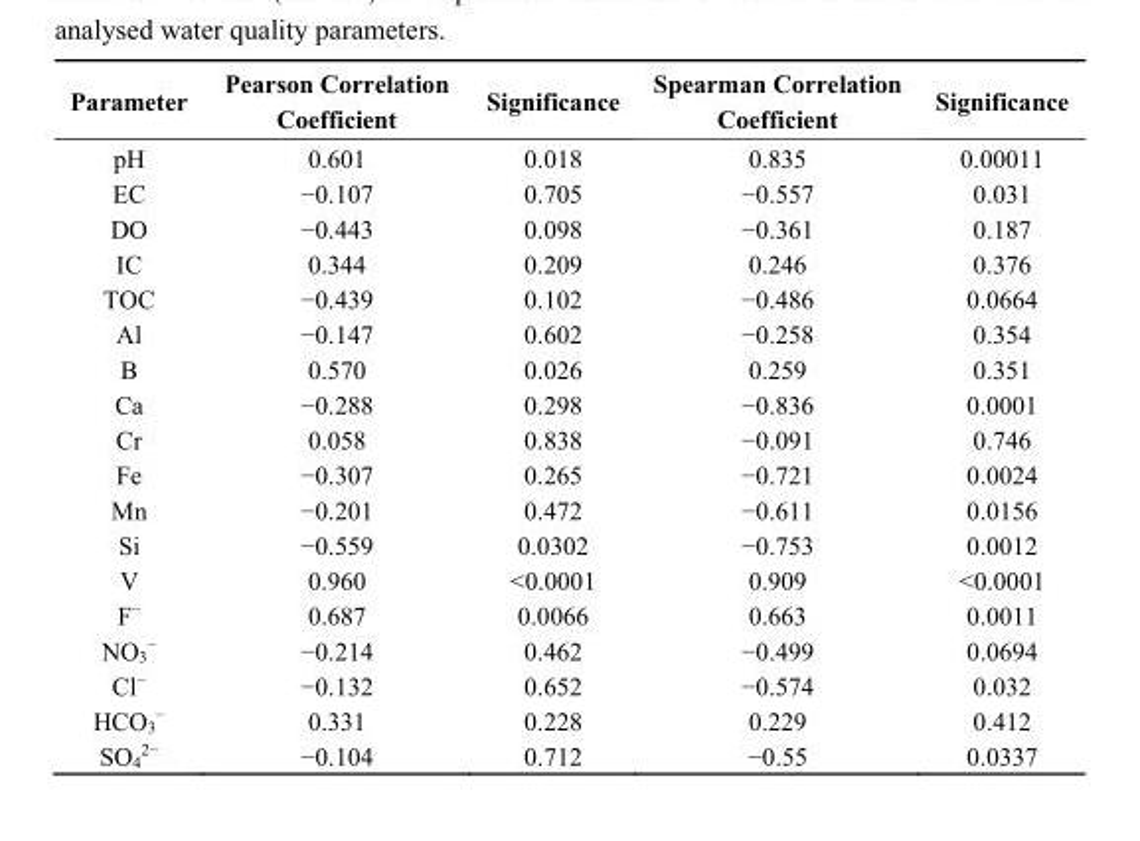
<table><thead><tr><td>Parameter</td><td>Pearson Correlation Coefficient</td><td>Significance</td><td>Spearman Correlation Coefficient</td><td>Significance</td></tr></thead><tbody><tr><td>pH</td><td>0.601</td><td>0.018</td><td>0.835</td><td>0.00011</td></tr><tr><td>EC</td><td>−0.107</td><td>0.705</td><td>−0.557</td><td>0.031</td></tr><tr><td>DO</td><td>−0.443</td><td>0.098</td><td>−0.361</td><td>0.187</td></tr><tr><td>IC</td><td>0.344</td><td>0.209</td><td>0.246</td><td>0.376</td></tr><tr><td>TOC</td><td>−0.439</td><td>0.102</td><td>−0.486</td><td>0.0664</td></tr><tr><td>Al</td><td>−0.147</td><td>0.602</td><td>−0.258</td><td>0.354</td></tr><tr><td>B</td><td>0.570</td><td>0.026</td><td>0.259</td><td>0.351</td></tr><tr><td>Ca</td><td>−0.288</td><td>0.298</td><td>−0.836</td><td>0.0001</td></tr><tr><td>Cr</td><td>0.058</td><td>0.838</td><td>−0.091</td><td>0.746</td></tr><tr><td>Fe</td><td>−0.307</td><td>0.265</td><td>−0.721</td><td>0.0024</td></tr><tr><td>Mn</td><td>−0.201</td><td>0.472</td><td>−0.611</td><td>0.0156</td></tr><tr><td>Si</td><td>−0.559</td><td>0.0302</td><td>−0.753</td><td>0.0012</td></tr><tr><td>V</td><td>0.960</td><td>&lt;0.0001</td><td>0.909</td><td>&lt;0.0001</td></tr><tr><td>F<sup>−</sup></td><td>0.687</td><td>0.0066</td><td>0.663</td><td>0.0011</td></tr><tr><td>NO<sub>3</sub><sup>−</sup></td><td>−0.214</td><td>0.462</td><td>−0.499</td><td>0.0694</td></tr><tr><td>Cl<sup>−</sup></td><td>−0.132</td><td>0.652</td><td>−0.574</td><td>0.032</td></tr><tr><td>HCO<sub>3</sub><sup>−</sup></td><td>0.331</td><td>0.228</td><td>0.229</td><td>0.412</td></tr><tr><td>SO<sub>4</sub><sup>2−</sup></td><td>−0.104</td><td>0.712</td><td>−0.55</td><td>0.0337</td></tr></tbody></table>